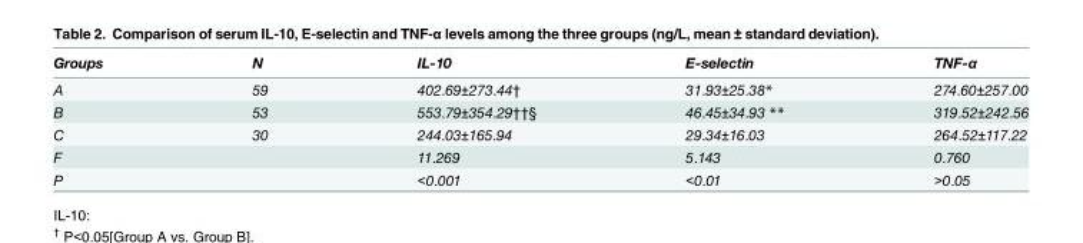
<table><thead><tr><td>Groups</td><td>N</td><td>IL-10</td><td>E-selectin</td><td>TNF-α</td></tr></thead><tbody><tr><td>A</td><td>59</td><td>402.69±273.44†</td><td>31.93±25.38*</td><td>274.60±257.00</td></tr><tr><td>B</td><td>53</td><td>553.79±354.29††§</td><td>46.45±34.93 **</td><td>319.52±242.56</td></tr><tr><td>C</td><td>30</td><td>244.03±165.94</td><td>29.34±16.03</td><td>264.52±117.22</td></tr><tr><td>F</td><td></td><td>11.269</td><td>5.143</td><td>0.760</td></tr><tr><td>P</td><td></td><td>&lt;0.001</td><td>&lt;0.01</td><td>&gt;0.05</td></tr></tbody></table>